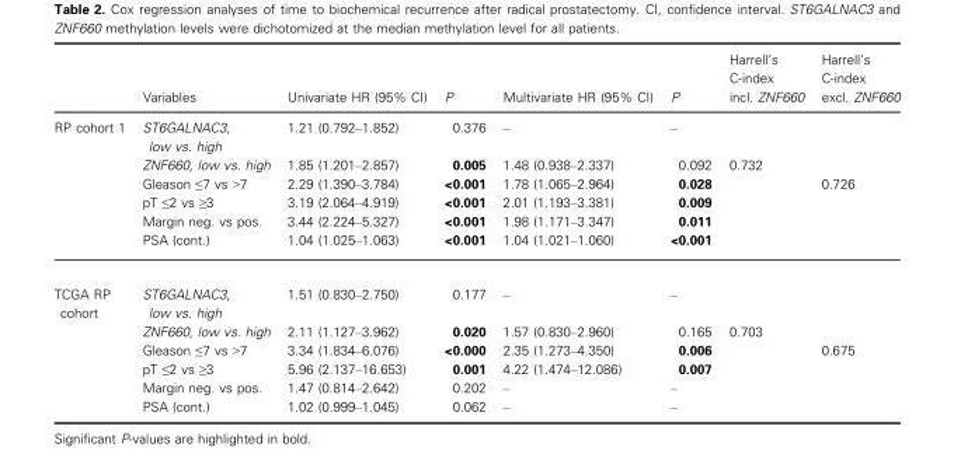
<table><thead><tr><td></td><td>Variables</td><td>Univariate HR (95% CI)</td><td>P</td><td>Multivariate HR (95% CI)</td><td>P</td><td>Harrell’s C-index incl. ZNF660</td><td>Harrell’s C-index excl. ZNF660</td></tr></thead><tbody><tr><td rowspan="6">RP cohort 1</td><td>ST6GALNAC3, low vs. high</td><td>1.21 (0.792–1.852)</td><td>0.376</td><td>–</td><td>–</td><td></td><td></td></tr><tr><td>ZNF660, low vs. high</td><td>1.85 (1.201–2.857)</td><td>0.005</td><td>1.48 (0.938–2.337)</td><td>0.092</td><td>0.732</td><td></td></tr><tr><td>Gleason ≤7 vs &gt;7</td><td>2.29 (1.390–3.784)</td><td>&lt;0.001</td><td>1.78 (1.065–2.964)</td><td>0.028</td><td></td><td>0.726</td></tr><tr><td>pT ≤2 vs ≥3</td><td>3.19 (2.064–4.919)</td><td>&lt;0.001</td><td>2.01 (1.193–3.381)</td><td>0.009</td><td></td><td></td></tr><tr><td>Margin neg. vs pos.</td><td>3.44 (2.224–5.327)</td><td>&lt;0.001</td><td>1.98 (1.171–3.347)</td><td>0.011</td><td></td><td></td></tr><tr><td>PSA (cont.)</td><td>1.04 (1.025–1.063)</td><td>&lt;0.001</td><td>1.04 (1.021–1.060)</td><td>&lt;0.001</td><td></td><td></td></tr><tr><td rowspan="6">TCGA RP cohort</td><td>ST6GALNAC3, low vs. high</td><td>1.51 (0.830–2.750)</td><td>0.177</td><td>–</td><td>–</td><td></td><td></td></tr><tr><td>ZNF660, low vs. high</td><td>2.11 (1.127–3.962)</td><td>0.020</td><td>1.57 (0.830–2.960)</td><td>0.165</td><td>0.703</td><td></td></tr><tr><td>Gleason ≤7 vs &gt;7</td><td>3.34 (1.834–6.076)</td><td>&lt;0.000</td><td>2.35 (1.273–4.350)</td><td>0.006</td><td></td><td>0.675</td></tr><tr><td>pT ≤2 vs ≥3</td><td>5.96 (2.137–16.653)</td><td>0.001</td><td>4.22 (1.474–12.086)</td><td>0.007</td><td></td><td></td></tr><tr><td>Margin neg. vs pos.</td><td>1.47 (0.814–2.642)</td><td>0.202</td><td>–</td><td>–</td><td></td><td></td></tr><tr><td>PSA (cont.)</td><td>1.02 (0.999–1.045)</td><td>0.062</td><td>–</td><td>–</td><td></td><td></td></tr></tbody></table>